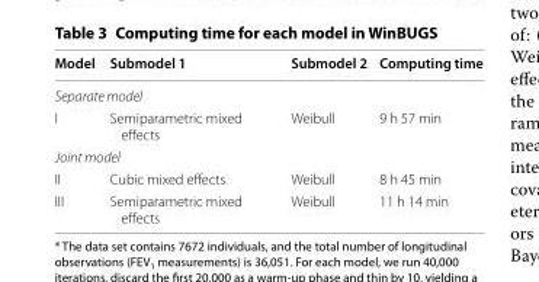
<table><thead><tr><td>Model</td><td>Submodel 1</td><td>Submodel 2</td><td>Computing time</td></tr></thead><tbody><tr><td colspan="4">Separate model</td></tr><tr><td>I</td><td>Semiparametric mixed effects</td><td>Weibull</td><td>9 h 57 min</td></tr><tr><td colspan="4">Joint model</td></tr><tr><td>II</td><td>Cubic mixed effects</td><td>Weibull</td><td>8 h 45 min</td></tr><tr><td>III</td><td>Semiparametric mixed effects</td><td>Weibull</td><td>11 h 14 min</td></tr></tbody></table>